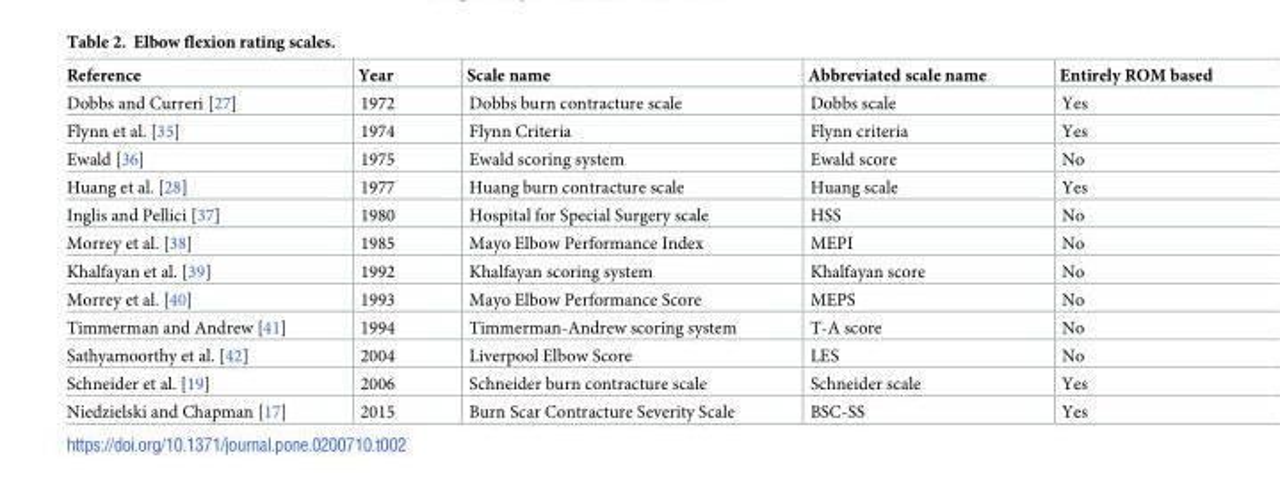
<table><thead><tr><td>Reference</td><td>Year</td><td>Scale name</td><td>Abbreviated scale name</td><td>Entirely ROM based</td></tr></thead><tbody><tr><td>Dobbs and Curreri [27]</td><td>1972</td><td>Dobbs burn contracture scale</td><td>Dobbs scale</td><td>Yes</td></tr><tr><td>Flynn et al. [35]</td><td>1974</td><td>Flynn Criteria</td><td>Flynn criteria</td><td>Yes</td></tr><tr><td>Ewald [36]</td><td>1975</td><td>Ewald scoring system</td><td>Ewald score</td><td>No</td></tr><tr><td>Huang et al. [28]</td><td>1977</td><td>Huang burn contracture scale</td><td>Huang scale</td><td>Yes</td></tr><tr><td>Inglis and Pellici [37]</td><td>1980</td><td>Hospital for Special Surgery scale</td><td>HSS</td><td>No</td></tr><tr><td>Morrey et al. [38]</td><td>1985</td><td>Mayo Elbow Performance Index</td><td>MEPI</td><td>No</td></tr><tr><td>Khalfayan et al. [39]</td><td>1992</td><td>Khalfayan scoring system</td><td>Khalfayan score</td><td>No</td></tr><tr><td>Morrey et al. [40]</td><td>1993</td><td>Mayo Elbow Performance Score</td><td>MEPS</td><td>No</td></tr><tr><td>Timmerman and Andrew [41]</td><td>1994</td><td>Timmerman-Andrew scoring system</td><td>T-A score</td><td>No</td></tr><tr><td>Sathyamoorthy et al. [42]</td><td>2004</td><td>Liverpool Elbow Score</td><td>LES</td><td>No</td></tr><tr><td>Schneider et al. [19]</td><td>2006</td><td>Schneider burn contracture scale</td><td>Schneider scale</td><td>Yes</td></tr><tr><td>Niedzielski and Chapman [17]</td><td>2015</td><td>Burn Scar Contracture Severity Scale</td><td>BSC-SS</td><td>Yes</td></tr></tbody></table>